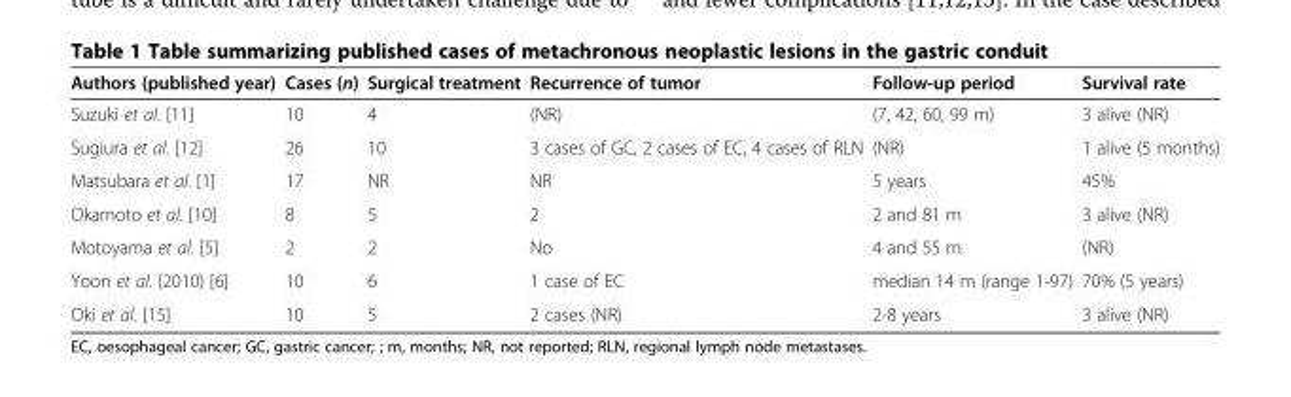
<table><thead><tr><td>Authors (published year)</td><td>Cases (n)</td><td>Surgical treatment</td><td>Recurrence of tumor</td><td>Follow-up period</td><td>Survival rate</td></tr></thead><tbody><tr><td>Suzuki et al. [11]</td><td>10</td><td>4</td><td>(NR)</td><td>(7, 42, 60, 99 m)</td><td>3 alive (NR)</td></tr><tr><td>Sugiura et al. [12]</td><td>26</td><td>10</td><td>3 cases of GC, 2 cases of EC, 4 cases of RLN</td><td>(NR)</td><td>1 alive (5 months)</td></tr><tr><td>Matsubara et al. [1]</td><td>17</td><td>NR</td><td>NR</td><td>5 years</td><td>45%</td></tr><tr><td>Okamoto et al. [10]</td><td>8</td><td>5</td><td>2</td><td>2 and 81 m</td><td>3 alive (NR)</td></tr><tr><td>Motoyama et al. [5]</td><td>2</td><td>2</td><td>No</td><td>4 and 55 m</td><td>(NR)</td></tr><tr><td>Yoon et al. (2010) [6]</td><td>10</td><td>6</td><td>1 case of EC</td><td>median 14 m (range 1-97)</td><td>70% (5 years)</td></tr><tr><td>Oki et al. [15]</td><td>10</td><td>5</td><td>2 cases (NR)</td><td>2-8 years</td><td>3 alive (NR)</td></tr></tbody></table>